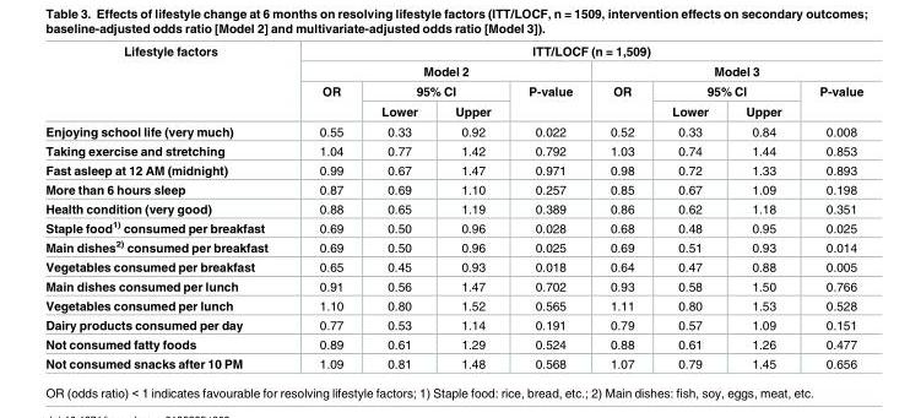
<table><thead><tr><td rowspan="4">Lifestyle factors</td><td colspan="8">ITT/LOCF (n = 1,509)</td></tr><tr><td colspan="4">Model 2</td><td colspan="4">Model 3</td></tr><tr><td rowspan="2">OR</td><td colspan="2">95% CI</td><td rowspan="2">P-value</td><td rowspan="2">OR</td><td colspan="2">95% CI</td><td rowspan="2">P-value</td></tr><tr><td>Lower</td><td>Upper</td><td>Lower</td><td>Upper</td></tr></thead><tbody><tr><td>Enjoying school life (very much)</td><td>0.55</td><td>0.33</td><td>0.92</td><td>0.022</td><td>0.52</td><td>0.33</td><td>0.84</td><td>0.008</td></tr><tr><td>Taking exercise and stretching</td><td>1.04</td><td>0.77</td><td>1.42</td><td>0.792</td><td>1.03</td><td>0.74</td><td>1.44</td><td>0.853</td></tr><tr><td>Fast asleep at 12 AM (midnight)</td><td>0.99</td><td>0.67</td><td>1.47</td><td>0.971</td><td>0.98</td><td>0.72</td><td>1.33</td><td>0.893</td></tr><tr><td>More than 6 hours sleep</td><td>0.87</td><td>0.69</td><td>1.10</td><td>0.257</td><td>0.85</td><td>0.67</td><td>1.09</td><td>0.198</td></tr><tr><td>Health condition (very good)</td><td>0.88</td><td>0.65</td><td>1.19</td><td>0.389</td><td>0.86</td><td>0.62</td><td>1.18</td><td>0.351</td></tr><tr><td>Staple food<sup>1)</sup> consumed per breakfast</td><td>0.69</td><td>0.50</td><td>0.96</td><td>0.028</td><td>0.68</td><td>0.48</td><td>0.95</td><td>0.025</td></tr><tr><td>Main dishes<sup>2)</sup> consumed per breakfast</td><td>0.69</td><td>0.50</td><td>0.96</td><td>0.025</td><td>0.69</td><td>0.51</td><td>0.93</td><td>0.014</td></tr><tr><td>Vegetables consumed per breakfast</td><td>0.65</td><td>0.45</td><td>0.93</td><td>0.018</td><td>0.64</td><td>0.47</td><td>0.88</td><td>0.005</td></tr><tr><td>Main dishes consumed per lunch</td><td>0.91</td><td>0.56</td><td>1.47</td><td>0.702</td><td>0.93</td><td>0.58</td><td>1.50</td><td>0.766</td></tr><tr><td>Vegetables consumed per lunch</td><td>1.10</td><td>0.80</td><td>1.52</td><td>0.565</td><td>1.11</td><td>0.80</td><td>1.53</td><td>0.528</td></tr><tr><td>Dairy products consumed per day</td><td>0.77</td><td>0.53</td><td>1.14</td><td>0.191</td><td>0.79</td><td>0.57</td><td>1.09</td><td>0.151</td></tr><tr><td>Not consumed fatty foods</td><td>0.89</td><td>0.61</td><td>1.29</td><td>0.524</td><td>0.88</td><td>0.61</td><td>1.26</td><td>0.477</td></tr><tr><td>Not consumed snacks after 10 PM</td><td>1.09</td><td>0.81</td><td>1.48</td><td>0.568</td><td>1.07</td><td>0.79</td><td>1.45</td><td>0.656</td></tr></tbody></table>